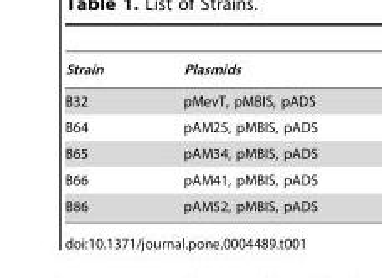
<table><thead><tr><td>Strain</td><td>Plasmids</td></tr></thead><tbody><tr><td>B32</td><td>pMevT, pMBIS, pADS</td></tr><tr><td>B64</td><td>pAM25, pMBIS, pADS</td></tr><tr><td>B65</td><td>pAM34, pMBIS, pADS</td></tr><tr><td>B66</td><td>pAM41, pMBIS, pADS</td></tr><tr><td>B86</td><td>pAM52, pMBIS, pADS</td></tr></tbody></table>